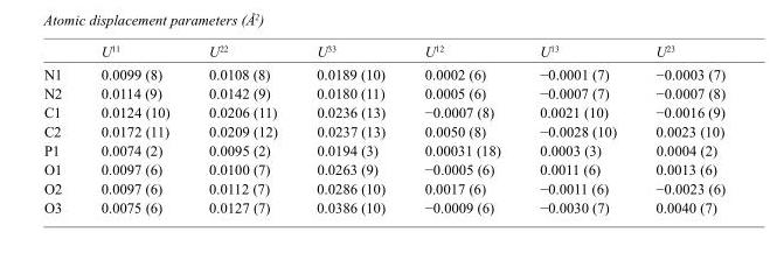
<table><thead><tr><td></td><td>U<sup>11</sup></td><td>U<sup>22</sup></td><td>U<sup>33</sup></td><td>U<sup>12</sup></td><td>U<sup>13</sup></td><td>U<sup>23</sup></td></tr></thead><tbody><tr><td>N1</td><td>0.0099 (8)</td><td>0.0108 (8)</td><td>0.0189 (10)</td><td>0.0002 (6)</td><td>−0.0001 (7)</td><td>−0.0003 (7)</td></tr><tr><td>N2</td><td>0.0114 (9)</td><td>0.0142 (9)</td><td>0.0180 (11)</td><td>0.0005 (6)</td><td>−0.0007 (7)</td><td>−0.0007 (8)</td></tr><tr><td>C1</td><td>0.0124 (10)</td><td>0.0206 (11)</td><td>0.0236 (13)</td><td>−0.0007 (8)</td><td>0.0021 (10)</td><td>−0.0016 (9)</td></tr><tr><td>C2</td><td>0.0172 (11)</td><td>0.0209 (12)</td><td>0.0237 (13)</td><td>0.0050 (8)</td><td>−0.0028 (10)</td><td>0.0023 (10)</td></tr><tr><td>P1</td><td>0.0074 (2)</td><td>0.0095 (2)</td><td>0.0194 (3)</td><td>0.00031 (18)</td><td>0.0003 (3)</td><td>0.0004 (2)</td></tr><tr><td>O1</td><td>0.0097 (6)</td><td>0.0100 (7)</td><td>0.0263 (9)</td><td>−0.0005 (6)</td><td>0.0011 (6)</td><td>0.0013 (6)</td></tr><tr><td>O2</td><td>0.0097 (6)</td><td>0.0112 (7)</td><td>0.0286 (10)</td><td>0.0017 (6)</td><td>−0.0011 (6)</td><td>−0.0023 (6)</td></tr><tr><td>O3</td><td>0.0075 (6)</td><td>0.0127 (7)</td><td>0.0386 (10)</td><td>−0.0009 (6)</td><td>−0.0030 (7)</td><td>0.0040 (7)</td></tr></tbody></table>